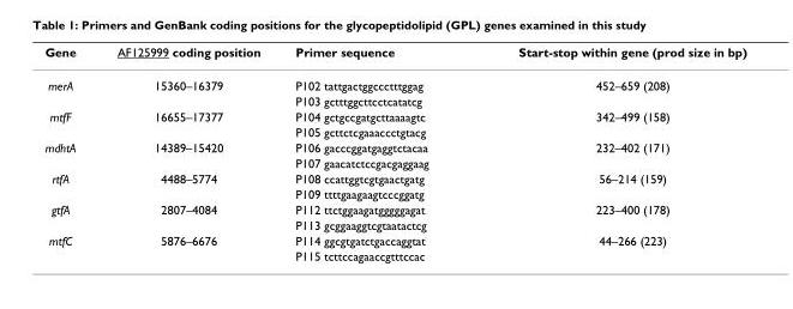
<table><thead><tr><td>Gene</td><td>AF125999 coding position</td><td>Primer sequence</td><td>Start-stop within gene (prod size in bp)</td></tr></thead><tbody><tr><td rowspan="2">merA</td><td>15360–16379</td><td>P102 tattgactggccctttggag</td><td>452–659 (208)</td></tr><tr><td></td><td>P103 gctttggcttcctcatatcg</td><td></td></tr><tr><td rowspan="2">mtfF</td><td>16655–17377</td><td>P104 gctgccgatgcttaaaagtc</td><td>342–499 (158)</td></tr><tr><td></td><td>P105 gcttctcgaaaccctgtacg</td><td></td></tr><tr><td rowspan="2">mdhtA</td><td>14389–15420</td><td>P106 gacccggatgaggtctacaa</td><td>232–402 (171)</td></tr><tr><td></td><td>P107 gaacatctccgacgaggaag</td><td></td></tr><tr><td rowspan="2">rtfA</td><td>4488–5774</td><td>P108 ccattggtcgtgaactgatg</td><td>56–214 (159)</td></tr><tr><td></td><td>P109 ttttgaagaagtcccggatg</td><td></td></tr><tr><td rowspan="2">gtfA</td><td>2807–4084</td><td>P112 ttctggaagatgggggagat</td><td>223–400 (178)</td></tr><tr><td></td><td>P113 gcggaaggtcgtaatactcg</td><td></td></tr><tr><td rowspan="2">mtfC</td><td>5876–6676</td><td>P114 ggcgtgatctgaccaggtat</td><td>44–266 (223)</td></tr><tr><td></td><td>P115 tcttccagaaccgtttccac</td><td></td></tr></tbody></table>